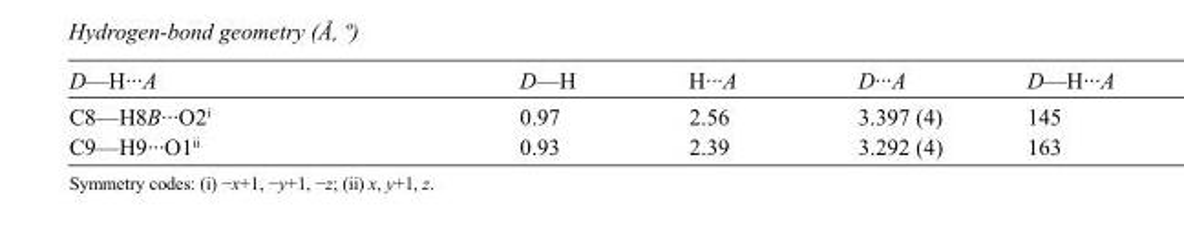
<table><tbody><tr><td>D—H···A</td><td>D—H</td><td>H···A</td><td>D···A</td><td>D—H···A</td></tr><tr><td>C8—H8B···O2<sup>i</sup></td><td>0.97</td><td>2.56</td><td>3.397 (4)</td><td>145</td></tr><tr><td>C9—H9···O1<sup>ii</sup></td><td>0.93</td><td>2.39</td><td>3.292 (4)</td><td>163</td></tr></tbody></table>